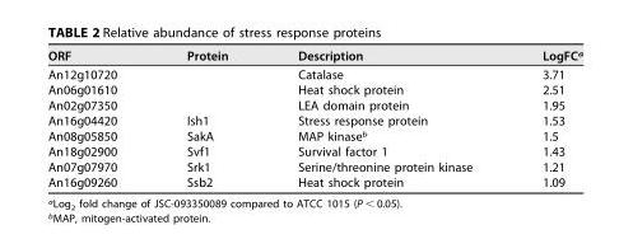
<table><thead><tr><td>ORF</td><td>Protein</td><td>Description</td><td>LogFC<sup>a</sup></td></tr></thead><tbody><tr><td>An12g10720</td><td></td><td>Catalase</td><td>3.71</td></tr><tr><td>An06g01610</td><td></td><td>Heat shock protein</td><td>2.51</td></tr><tr><td>An02g07350</td><td></td><td>LEA domain protein</td><td>1.95</td></tr><tr><td>An16g04420</td><td>Ish1</td><td>Stress response protein</td><td>1.53</td></tr><tr><td>An08g05850</td><td>SakA</td><td>MAP kinase<sup>b</sup></td><td>1.5</td></tr><tr><td>An18g02900</td><td>Svf1</td><td>Survival factor 1</td><td>1.43</td></tr><tr><td>An07g07970</td><td>Srk1</td><td>Serine/threonine protein kinase</td><td>1.21</td></tr><tr><td>An16g09260</td><td>Ssb2</td><td>Heat shock protein</td><td>1.09</td></tr></tbody></table>